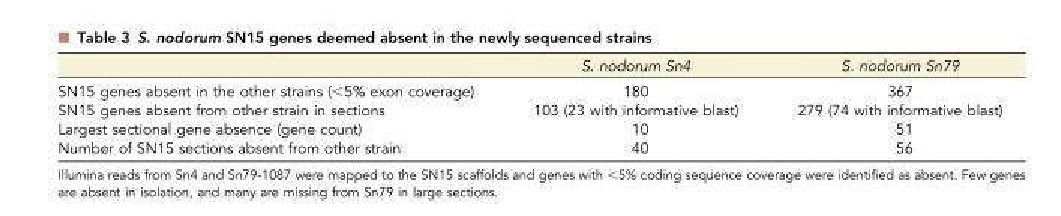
<table><thead><tr><td></td><td>S. nodorum Sn4</td><td>S. nodorum Sn79</td></tr></thead><tbody><tr><td>SN15 genes absent in the other strains (&lt;5% exon coverage)</td><td>180</td><td>367</td></tr><tr><td>SN15 genes absent from other strain in sections</td><td>103 (23 with informative blast)</td><td>279 (74 with informative blast)</td></tr><tr><td>Largest sectional gene absence (gene count)</td><td>10</td><td>51</td></tr><tr><td>Number of SN15 sections absent from other strain</td><td>40</td><td>56</td></tr></tbody></table>